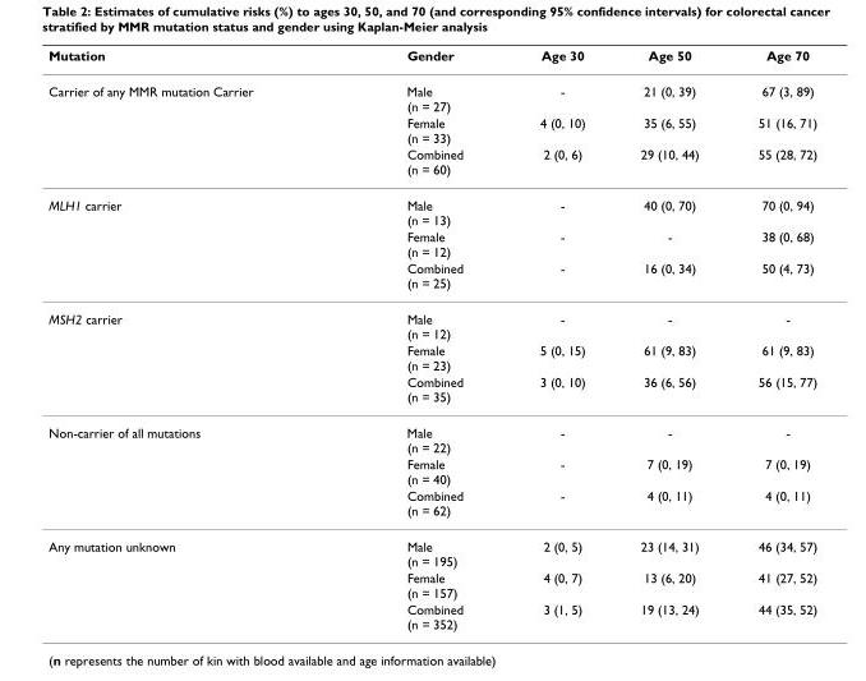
<table><thead><tr><td>Mutation</td><td>Gender</td><td>Age 30</td><td>Age 50</td><td>Age 70</td></tr></thead><tbody><tr><td rowspan="3">Carrier of any MMR mutation Carrier</td><td>Male (n = 27)</td><td>-</td><td>21 (0, 39)</td><td>67 (3, 89)</td></tr><tr><td>Female (n = 33)</td><td>4 (0, 10)</td><td>35 (6, 55)</td><td>51 (16, 71)</td></tr><tr><td>Combined (n = 60)</td><td>2 (0, 6)</td><td>29 (10, 44)</td><td>55 (28, 72)</td></tr><tr><td rowspan="3">MLH1 carrier</td><td>Male (n = 13)</td><td>-</td><td>40 (0, 70)</td><td>70 (0, 94)</td></tr><tr><td>Female (n = 12)</td><td>-</td><td>-</td><td>38 (0, 68)</td></tr><tr><td>Combined (n = 25)</td><td>-</td><td>16 (0, 34)</td><td>50 (4, 73)</td></tr><tr><td rowspan="3">MSH2 carrier</td><td>Male (n = 12)</td><td>-</td><td>-</td><td>-</td></tr><tr><td>Female (n = 23)</td><td>5 (0, 15)</td><td>61 (9, 83)</td><td>61 (9, 83)</td></tr><tr><td>Combined (n = 35)</td><td>3 (0, 10)</td><td>36 (6, 56)</td><td>56 (15, 77)</td></tr><tr><td rowspan="3">Non-carrier of all mutations</td><td>Male (n = 22)</td><td>-</td><td>-</td><td>-</td></tr><tr><td>Female (n = 40)</td><td>-</td><td>7 (0, 19)</td><td>7 (0, 19)</td></tr><tr><td>Combined (n = 62)</td><td>-</td><td>4 (0, 11)</td><td>4 (0, 11)</td></tr><tr><td rowspan="3">Any mutation unknown</td><td>Male (n = 195)</td><td>2 (0, 5)</td><td>23 (14, 31)</td><td>46 (34, 57)</td></tr><tr><td>Female (n = 157)</td><td>4 (0, 7)</td><td>13 (6, 20)</td><td>41 (27, 52)</td></tr><tr><td>Combined (n = 352)</td><td>3 (1, 5)</td><td>19 (13, 24)</td><td>44 (35, 52)</td></tr></tbody></table>